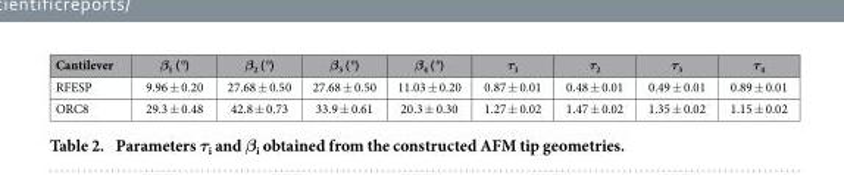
<table><thead><tr><td>Cantilever</td><td>β<sub>1</sub> (°)</td><td>β<sub>2</sub> (°)</td><td>β<sub>3</sub> (°)</td><td>β<sub>4</sub> (°)</td><td>τ<sub>1</sub></td><td>τ<sub>2</sub></td><td>τ<sub>3</sub></td><td>τ<sub>4</sub></td></tr></thead><tbody><tr><td>RFESP</td><td>9.96 ± 0.20</td><td>27.68 ± 0.50</td><td>27.68 ± 0.50</td><td>11.03 ± 0.20</td><td>0.87 ± 0.01</td><td>0.48 ± 0.01</td><td>0.49 ± 0.01</td><td>0.89 ± 0.01</td></tr><tr><td>ORC8</td><td>29.3 ± 0.48</td><td>42.8 ± 0.73</td><td>33.9 ± 0.61</td><td>20.3 ± 0.30</td><td>1.27 ± 0.02</td><td>1.47 ± 0.02</td><td>1.35 ± 0.02</td><td>1.15 ± 0.02</td></tr></tbody></table>